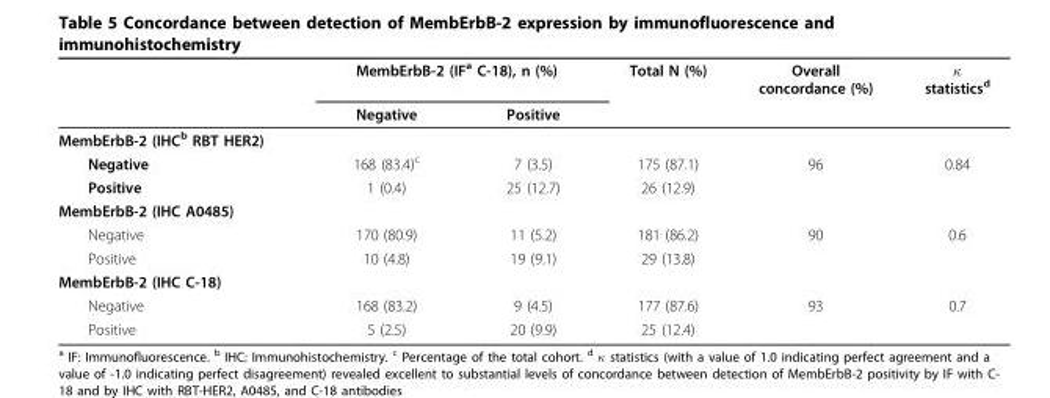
<table><thead><tr><td rowspan="2"></td><td colspan="2">MembErbB-2 (IF<sup>a</sup> C-18), n (%)</td><td rowspan="2">Total N (%)</td><td rowspan="2">Overall concordance (%)</td><td rowspan="2">κ statistics<sup>d</sup></td></tr><tr><td>Negative</td><td>Positive</td></tr></thead><tbody><tr><td colspan="6">MembErbB-2 (IHC<sup>b</sup> RBT HER2)</td></tr><tr><td>Negative</td><td>168 (83.4)<sup>c</sup></td><td>7 (3.5)</td><td>175 (87.1)</td><td>96</td><td>0.84</td></tr><tr><td>Positive</td><td>1 (0.4)</td><td>25 (12.7)</td><td>26 (12.9)</td><td></td><td></td></tr><tr><td colspan="6">MembErbB-2 (IHC A0485)</td></tr><tr><td>Negative</td><td>170 (80.9)</td><td>11 (5.2)</td><td>181 (86.2)</td><td>90</td><td>0.6</td></tr><tr><td>Positive</td><td>10 (4.8)</td><td>19 (9.1)</td><td>29 (13.8)</td><td></td><td></td></tr><tr><td colspan="6">MembErbB-2 (IHC C-18)</td></tr><tr><td>Negative</td><td>168 (83.2)</td><td>9 (4.5)</td><td>177 (87.6)</td><td>93</td><td>0.7</td></tr><tr><td>Positive</td><td>5 (2.5)</td><td>20 (9.9)</td><td>25 (12.4)</td><td></td><td></td></tr></tbody></table>